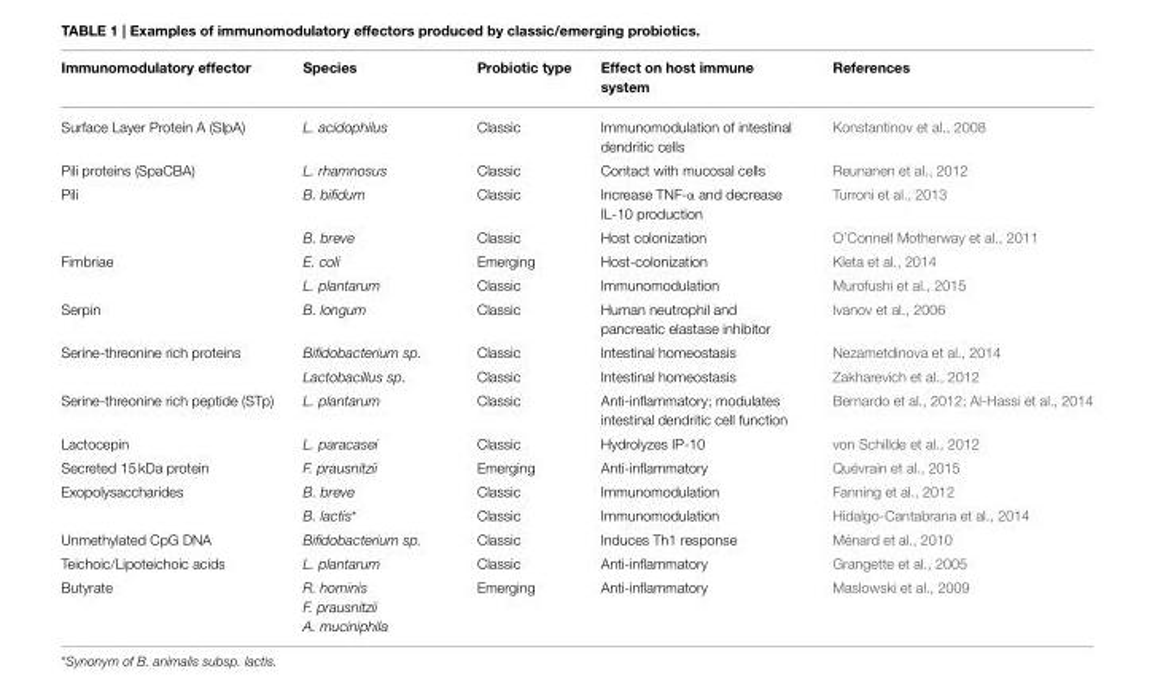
<table><thead><tr><td>Immunomodulatory effector</td><td>Species</td><td>Probiotic type</td><td>Effect on host immune system</td><td>References</td></tr></thead><tbody><tr><td>Surface Layer Protein A (SlpA)</td><td>L. acidophilus</td><td>Classic</td><td>Immunomodulation of intestinal dendritic cells</td><td>Konstantinov et al., 2008</td></tr><tr><td>Pili proteins (SpaCBA)</td><td>L. rhamnosus</td><td>Classic</td><td>Contact with mucosal cells</td><td>Reunanen et al., 2012</td></tr><tr><td rowspan="2">Pili</td><td>B. bifidum</td><td>Classic</td><td>Increase TNF-α and decrease IL-10 production</td><td>Turroni et al., 2013</td></tr><tr><td>B. breve</td><td>Classic</td><td>Host colonization</td><td>O’Connell Motherway et al., 2011</td></tr><tr><td rowspan="2">Fimbriae</td><td>E. coli</td><td>Emerging</td><td>Host-colonization</td><td>Kleta et al., 2014</td></tr><tr><td>L. plantarum</td><td>Classic</td><td>Immunomodulation</td><td>Murofushi et al., 2015</td></tr><tr><td>Serpin</td><td>B. longum</td><td>Classic</td><td>Human neutrophil and pancreatic elastase inhibitor</td><td>Ivanov et al., 2006</td></tr><tr><td rowspan="2">Serine-threonine rich proteins</td><td>Bifidobacterium sp.</td><td>Classic</td><td>Intestinal homeostasis</td><td>Nezametdinova et al., 2014</td></tr><tr><td>Lactobacillus sp.</td><td>Classic</td><td>Intestinal homeostasis</td><td>Zakharevich et al., 2012</td></tr><tr><td>Serine-threonine rich peptide (STp)</td><td>L. plantarum</td><td>Classic</td><td>Anti-inflammatory; modulates intestinal dendritic cell function</td><td>Bernardo et al., 2012; Al-Hassi et al., 2014</td></tr><tr><td>Lactocepin</td><td>L. paracasei</td><td>Classic</td><td>Hydrolyzes IP-10</td><td>von Schillde et al., 2012</td></tr><tr><td>Secreted 15 kDa protein</td><td>F. prausnitzii</td><td>Emerging</td><td>Anti-inflammatory</td><td>Quévrain et al., 2015</td></tr><tr><td rowspan="2">Exopolysaccharides</td><td>B. breve</td><td>Classic</td><td>Immunomodulation</td><td>Fanning et al., 2012</td></tr><tr><td>B. lactis*</td><td>Classic</td><td>Immunomodulation</td><td>Hidalgo-Cantabrana et al., 2014</td></tr><tr><td>Unmethylated CpG DNA</td><td>Bifidobacterium sp.</td><td>Classic</td><td>Induces Th1 response</td><td>Ménard et al., 2010</td></tr><tr><td>Teichoic/Lipoteichoic acids</td><td>L. plantarum</td><td>Classic</td><td>Anti-inflammatory</td><td>Grangette et al., 2005</td></tr><tr><td>Butyrate</td><td>R. hominis F. prausnitzii A. muciniphila</td><td>Emerging</td><td>Anti-inflammatory</td><td>Maslowski et al., 2009</td></tr></tbody></table>